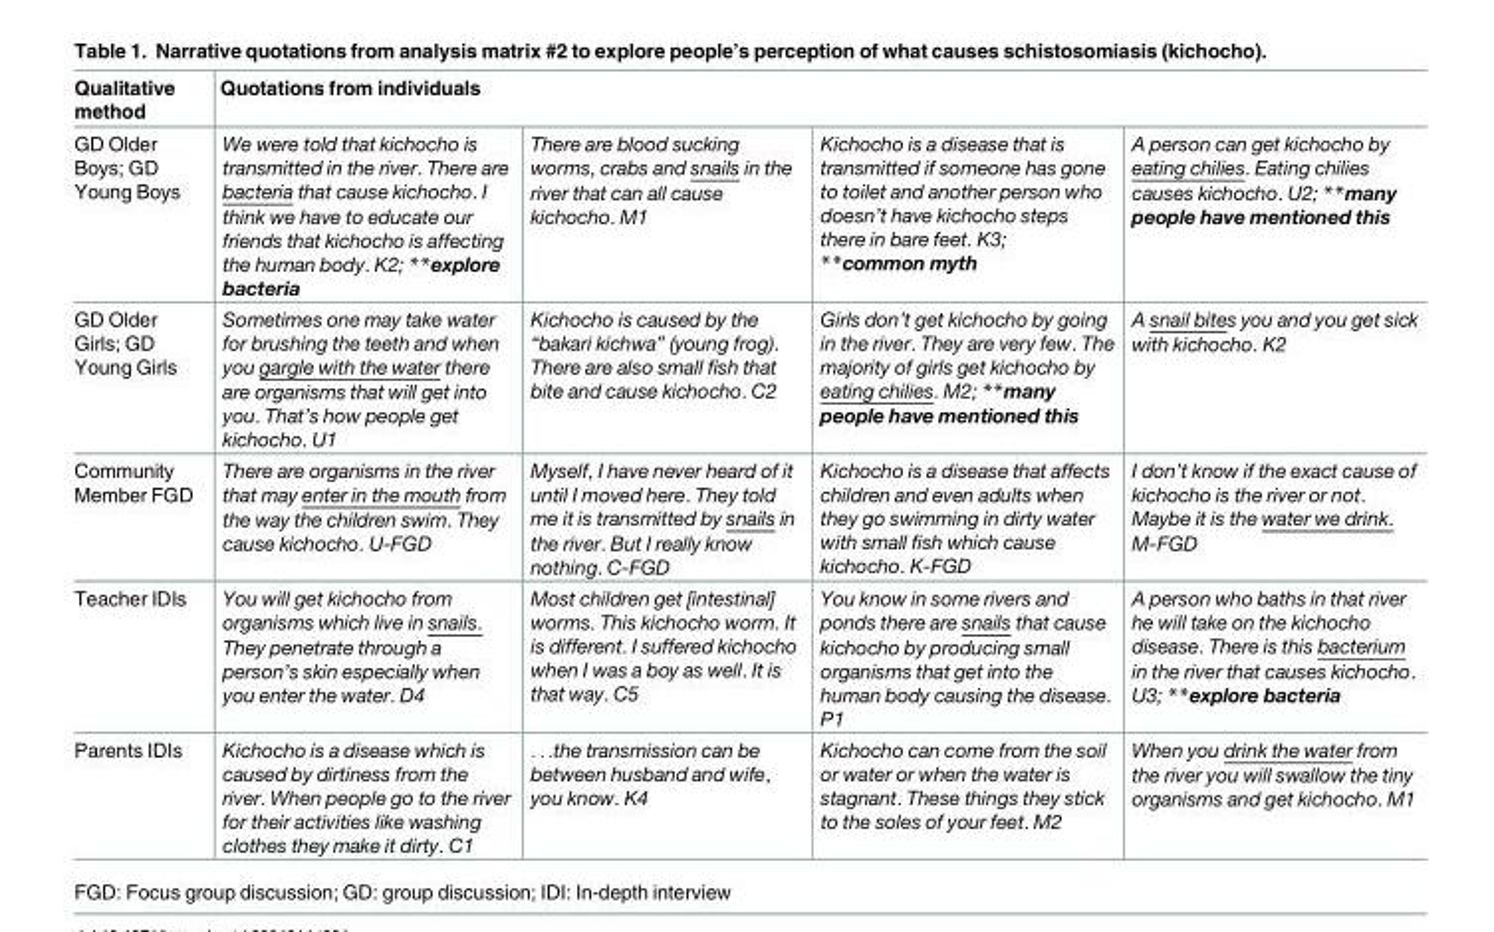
<table><thead><tr><td rowspan="2">Qualitative method GD Older Boys; GD Young Boys</td><td colspan="4">Quotations from individuals</td></tr><tr><td>We were told that kichocho is transmitted in the river. There are bacteria that cause kichocho. I think we have to educate our friends that kichocho is affecting the human body. K2; **explore bacteria</td><td>There are blood sucking worms, crabs and snails in the river that can all cause kichocho. M1</td><td>Kichocho is a disease that is transmitted if someone has gone to toilet and another person who doesn’t have kichocho steps there in bare feet. K3; **common myth</td><td>A person can get kichocho by eating chilies. Eating chilies causes kichocho. U2; **many people have mentioned this</td></tr></thead><tbody><tr><td>GD Older Girls; GD Young Girls</td><td>Sometimes one may take water for brushing the teeth and when you gargle with the water there are organisms that will get into you. That’s how people get kichocho. U1</td><td>Kichocho is caused by the “bakari kichwa” (young frog). There are also small fish that bite and cause kichocho. C2</td><td>Girls don’t get kichocho by going in the river. They are very few. The majority of girls get kichocho by eating chilies. M2; **many people have mentioned this</td><td>A snail bites you and you get sick with kichocho. K2</td></tr><tr><td>Community Member FGD</td><td>There are organisms in the river that may enter in the mouth from the way the children swim. They cause kichocho. U-FGD</td><td>Myself, I have never heard of it until I moved here. They told me it is transmitted by snails in the river. But I really know nothing. C-FGD</td><td>Kichocho is a disease that affects children and even adults when they go swimming in dirty water with small fish which cause kichocho. K-FGD</td><td>I don’t know if the exact cause of kichocho is the river or not. Maybe it is the water we drink. M-FGD</td></tr><tr><td>Teacher IDIs</td><td>You will get kichocho from organisms which live in snails. They penetrate through a person’s skin especially when you enter the water. D4</td><td>Most children get [intestinal] worms. This kichocho worm. It is different. I suffered kichocho when I was a boy as well. It is that way. C5</td><td>You know in some rivers and ponds there are snails that cause kichocho by producing small organisms that get into the human body causing the disease. P1</td><td>A person who baths in that river he will take on the kichocho disease. There is this bacterium in the river that causes kichocho. U3; **explore bacteria</td></tr><tr><td>Parents IDIs</td><td>Kichocho is a disease which is caused by dirtiness from the river. When people go to the river for their activities like washing clothes they make it dirty. C1</td><td>. . .the transmission can be between husband and wife, you know. K4</td><td>Kichocho can come from the soil or water or when the water is stagnant. These things they stick to the soles of your feet. M2</td><td>When you drink the water from the river you will swallow the tiny organisms and get kichocho. M1</td></tr></tbody></table>